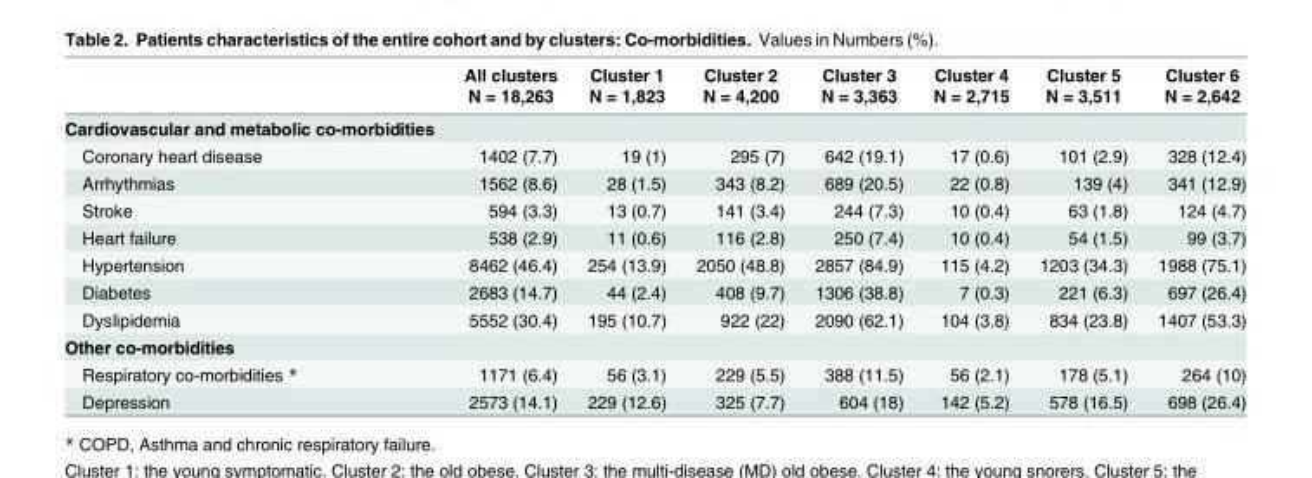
<table><thead><tr><td rowspan="2"></td><td rowspan="2">All clusters N = 18,263</td><td rowspan="2">Cluster 1 N = 1,823</td><td rowspan="2">Cluster 2 N = 4,200</td><td rowspan="2">Cluster 3 N = 3,363</td><td rowspan="2">Cluster 4 N = 2,715</td><td rowspan="2">Cluster 5 N = 3,511</td><td rowspan="2">Cluster 6 N = 2,642</td></tr><tr></tr></thead><tbody><tr><td colspan="8">Cardiovascular and metabolic co-morbidities</td></tr><tr><td>Coronary heart disease</td><td>1402 (7.7)</td><td>19 (1)</td><td>295 (7)</td><td>642 (19.1)</td><td>17 (0.6)</td><td>101 (2.9)</td><td>328 (12.4)</td></tr><tr><td>Arrhythmias</td><td>1562 (8.6)</td><td>28 (1.5)</td><td>343 (8.2)</td><td>689 (20.5)</td><td>22 (0.8)</td><td>139 (4)</td><td>341 (12.9)</td></tr><tr><td>Stroke</td><td>594 (3.3)</td><td>13 (0.7)</td><td>141 (3.4)</td><td>244 (7.3)</td><td>10 (0.4)</td><td>63 (1.8)</td><td>124 (4.7)</td></tr><tr><td>Heart failure</td><td>538 (2.9)</td><td>11 (0.6)</td><td>116 (2.8)</td><td>250 (7.4)</td><td>10 (0.4)</td><td>54 (1.5)</td><td>99 (3.7)</td></tr><tr><td>Hypertension</td><td>8462 (46.4)</td><td>254 (13.9)</td><td>2050 (48.8)</td><td>2857 (84.9)</td><td>115 (4.2)</td><td>1203 (34.3)</td><td>1988 (75.1)</td></tr><tr><td>Diabetes</td><td>2683 (14.7)</td><td>44 (2.4)</td><td>408 (9.7)</td><td>1306 (38.8)</td><td>7 (0.3)</td><td>221 (6.3)</td><td>697 (26.4)</td></tr><tr><td>Dyslipidemia</td><td>5552 (30.4)</td><td>195 (10.7)</td><td>922 (22)</td><td>2090 (62.1)</td><td>104 (3.8)</td><td>834 (23.8)</td><td>1407 (53.3)</td></tr><tr><td colspan="8">Other co-morbidities</td></tr><tr><td>Respiratory co-morbidities *</td><td>1171 (6.4)</td><td>56 (3.1)</td><td>229 (5.5)</td><td>388 (11.5)</td><td>56 (2.1)</td><td>178 (5.1)</td><td>264 (10)</td></tr><tr><td>Depression</td><td>2573 (14.1)</td><td>229 (12.6)</td><td>325 (7.7)</td><td>604 (18)</td><td>142 (5.2)</td><td>578 (16.5)</td><td>698 (26.4)</td></tr></tbody></table>